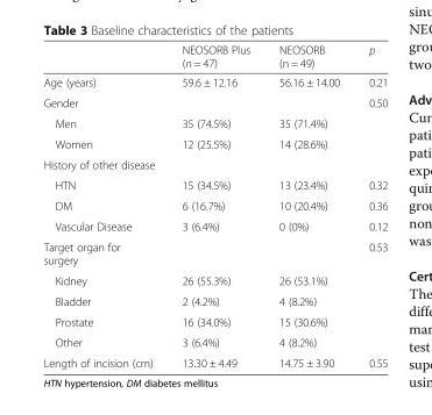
<table><thead><tr><td></td><td>NEOSORB Plus (n = 47)</td><td>NEOSORB (n = 49)</td><td>p</td></tr></thead><tbody><tr><td>Age (years)</td><td>59.6 ± 12.16</td><td>56.16 ± 14.00</td><td>0.21</td></tr><tr><td>Gender</td><td></td><td></td><td>0.50</td></tr><tr><td>Men</td><td>35 (74.5%)</td><td>35 (71.4%)</td><td></td></tr><tr><td>Women</td><td>12 (25.5%)</td><td>14 (28.6%)</td><td></td></tr><tr><td colspan="4">History of other disease</td></tr><tr><td>HTN</td><td>15 (34.5%)</td><td>13 (23.4%)</td><td>0.32</td></tr><tr><td>DM</td><td>6 (16.7%)</td><td>10 (20.4%)</td><td>0.36</td></tr><tr><td>Vascular Disease</td><td>3 (6.4%)</td><td>0 (0%)</td><td>0.12</td></tr><tr><td>Target organ for surgery</td><td></td><td></td><td>0.53</td></tr><tr><td>Kidney</td><td>26 (55.3%)</td><td>26 (53.1%)</td><td></td></tr><tr><td>Bladder</td><td>2 (4.2%)</td><td>4 (8.2%)</td><td></td></tr><tr><td>Prostate</td><td>16 (34.0%)</td><td>15 (30.6%)</td><td></td></tr><tr><td>Other</td><td>3 (6.4%)</td><td>4 (8.2%)</td><td></td></tr><tr><td>Length of incision (cm)</td><td>13.30 ± 4.49</td><td>14.75 ± 3.90</td><td>0.55</td></tr></tbody></table>